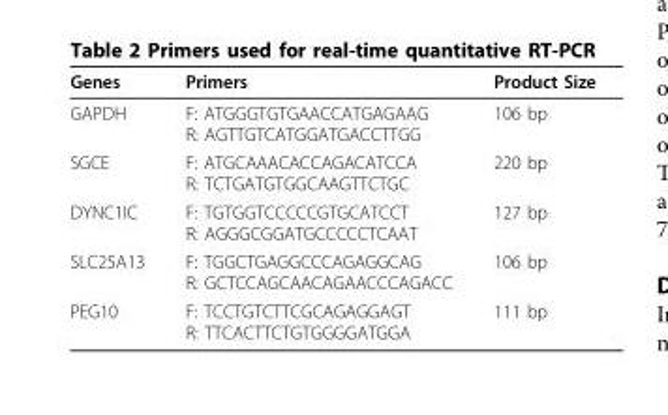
<table><thead><tr><td>Genes</td><td>Primers</td><td>Product Size</td></tr></thead><tbody><tr><td>GAPDH</td><td>F: ATGGGTGTGAACCATGAGAAG R: AGTTGTCATGGATGACCTTGG</td><td>106 bp</td></tr><tr><td>SGCE</td><td>F: ATGCAAACACCAGACATCCA R: TCTGATGTGGCAAGTTCTGC</td><td>220 bp</td></tr><tr><td>DYNC1IC</td><td>F: TGTGGTCCCCCGTGCATCCT R: AGGGCGGATGCCCCCTCAAT</td><td>127 bp</td></tr><tr><td>SLC25A13</td><td>F: TGGCTGAGGCCCAGAGGCAG R: GCTCCAGCAACAGAACCCAGACC</td><td>106 bp</td></tr><tr><td>PEG10</td><td>F: TCCTGTCTTCGCAGAGGAGT R: TTCACTTCTGTGGGGATGGA</td><td>111 bp</td></tr></tbody></table>